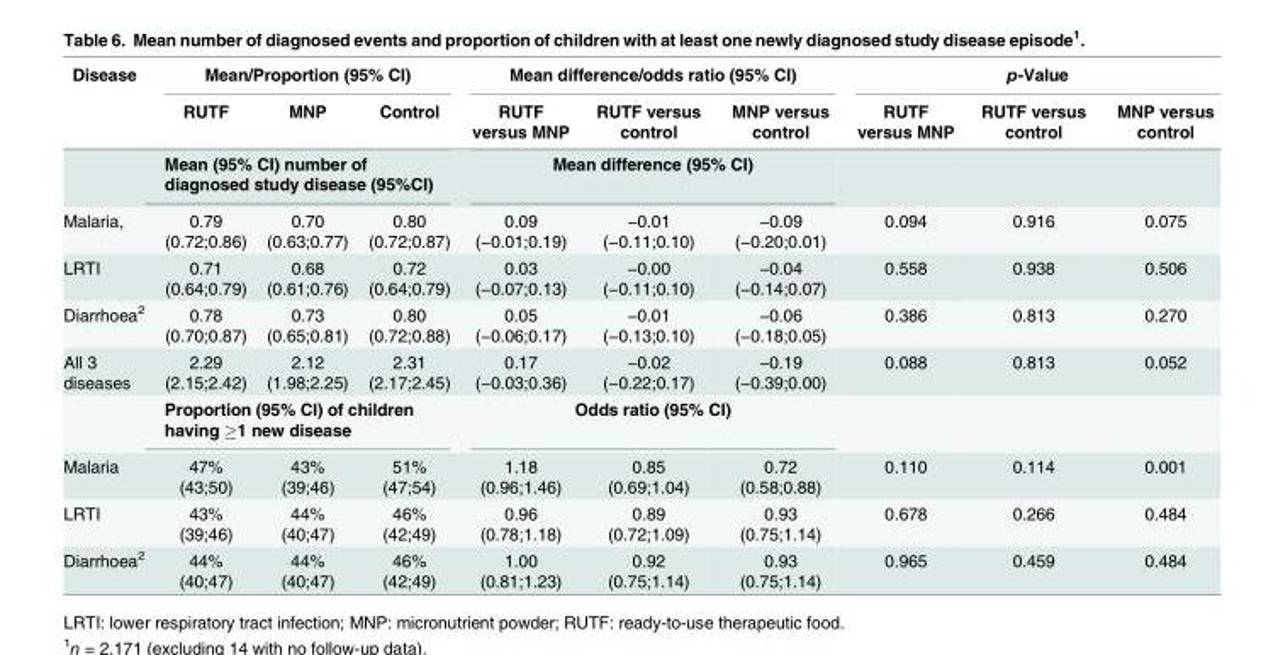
<table><thead><tr><td rowspan="2">Disease</td><td colspan="3">Mean/Proportion (95% CI)</td><td colspan="3">Mean difference/odds ratio (95% CI)</td><td colspan="3">p-Value</td></tr><tr><td>RUTF</td><td>MNP</td><td>Control</td><td>RUTF versus MNP</td><td>RUTF versus control</td><td>MNP versus control</td><td>RUTF versus MNP</td><td>RUTF versus control</td><td>MNP versus control</td></tr></thead><tbody><tr><td></td><td colspan="3">Mean (95% CI) number of diagnosed study disease (95%CI)</td><td colspan="3">Mean difference (95% CI)</td><td></td><td></td><td></td></tr><tr><td>Malaria,</td><td>0.79 (0.72;0.86)</td><td>0.70 (0.63;0.77)</td><td>0.80 (0.72;0.87)</td><td>0.09 (−0.01;0.19)</td><td>−0.01 (−0.11;0.10)</td><td>−0.09 (−0.20;0.01)</td><td>0.094</td><td>0.916</td><td>0.075</td></tr><tr><td>LRTI</td><td>0.71 (0.64;0.79)</td><td>0.68 (0.61;0.76)</td><td>0.72 (0.64;0.79)</td><td>0.03 (−0.07;0.13)</td><td>−0.00 (−0.11;0.10)</td><td>−0.04 (−0.14;0.07)</td><td>0.558</td><td>0.938</td><td>0.506</td></tr><tr><td>Diarrhoea<sup>2</sup></td><td>0.78 (0.70;0.87)</td><td>0.73 (0.65;0.81)</td><td>0.80 (0.72;0.88)</td><td>0.05 (−0.06;0.17)</td><td>−0.01 (−0.13;0.10)</td><td>−0.06 (−0.18;0.05)</td><td>0.386</td><td>0.813</td><td>0.270</td></tr><tr><td rowspan="2">All 3 diseases</td><td>2.29 (2.15;2.42)</td><td>2.12 (1.98;2.25)</td><td>2.31 (2.17;2.45)</td><td>0.17 (−0.03;0.36)</td><td>−0.02 (−0.22;0.17)</td><td>−0.19 (−0.39;0.00)</td><td>0.088</td><td>0.813</td><td>0.052</td></tr><tr><td colspan="3">Proportion (95% CI) of children having ≥1 new disease</td><td colspan="3">Odds ratio (95% CI)</td><td></td><td></td><td></td></tr><tr><td>Malaria</td><td>47% (43;50)</td><td>43% (39;46)</td><td>51% (47;54)</td><td>1.18 (0.96;1.46)</td><td>0.85 (0.69;1.04)</td><td>0.72 (0.58;0.88)</td><td>0.110</td><td>0.114</td><td>0.001</td></tr><tr><td>LRTI</td><td>43% (39;46)</td><td>44% (40;47)</td><td>46% (42;49)</td><td>0.96 (0.78;1.18)</td><td>0.89 (0.72;1.09)</td><td>0.93 (0.75;1.14)</td><td>0.678</td><td>0.266</td><td>0.484</td></tr><tr><td>Diarrhoea<sup>2</sup></td><td>44% (40;47)</td><td>44% (40;47)</td><td>46% (42;49)</td><td>1.00 (0.81;1.23)</td><td>0.92 (0.75;1.14)</td><td>0.93 (0.75;1.14)</td><td>0.965</td><td>0.459</td><td>0.484</td></tr></tbody></table>